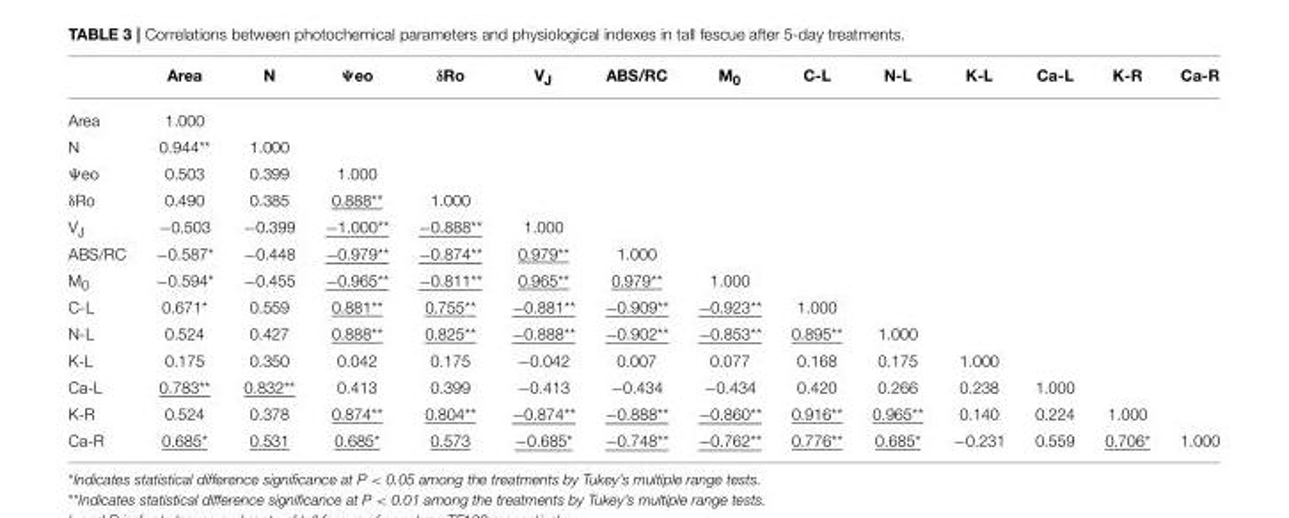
<table><thead><tr><td></td><td>Area</td><td>N</td><td>Ψeo</td><td>δRo</td><td>V<sub>J</sub></td><td>ABS/RC</td><td>M<sub>0</sub></td><td>C-L</td><td>N-L</td><td>K-L</td><td>Ca-L</td><td>K-R</td><td>Ca-R</td></tr></thead><tbody><tr><td>Area</td><td>1.000</td><td></td><td></td><td></td><td></td><td></td><td></td><td></td><td></td><td></td><td></td><td></td><td></td></tr><tr><td>N</td><td>0.944**</td><td>1.000</td><td></td><td></td><td></td><td></td><td></td><td></td><td></td><td></td><td></td><td></td><td></td></tr><tr><td>Ψeo</td><td>0.503</td><td>0.399</td><td>1.000</td><td></td><td></td><td></td><td></td><td></td><td></td><td></td><td></td><td></td><td></td></tr><tr><td>δRo</td><td>0.490</td><td>0.385</td><td>0.888**</td><td>1.000</td><td></td><td></td><td></td><td></td><td></td><td></td><td></td><td></td><td></td></tr><tr><td>V<sub>J</sub></td><td>−0.503</td><td>−0.399</td><td>−1.000**</td><td>−0.888**</td><td>1.000</td><td></td><td></td><td></td><td></td><td></td><td></td><td></td><td></td></tr><tr><td>ABS/RC</td><td>−0.587*</td><td>−0.448</td><td>−0.979**</td><td>−0.874**</td><td>0.979**</td><td>1.000</td><td></td><td></td><td></td><td></td><td></td><td></td><td></td></tr><tr><td>M<sub>0</sub></td><td>−0.594*</td><td>−0.455</td><td>−0.965**</td><td>−0.811**</td><td>0.965**</td><td>0.979**</td><td>1.000</td><td></td><td></td><td></td><td></td><td></td><td></td></tr><tr><td>C-L</td><td>0.671*</td><td>0.559</td><td>0.881**</td><td>0.755**</td><td>−0.881**</td><td>−0.909**</td><td>−0.923**</td><td>1.000</td><td></td><td></td><td></td><td></td><td></td></tr><tr><td>N-L</td><td>0.524</td><td>0.427</td><td>0.888**</td><td>0.825**</td><td>−0.888**</td><td>−0.902**</td><td>−0.853**</td><td>0.895**</td><td>1.000</td><td></td><td></td><td></td><td></td></tr><tr><td>K-L</td><td>0.175</td><td>0.350</td><td>0.042</td><td>0.175</td><td>−0.042</td><td>0.007</td><td>0.077</td><td>0.168</td><td>0.175</td><td>1.000</td><td></td><td></td><td></td></tr><tr><td>Ca-L</td><td>0.783**</td><td>0.832**</td><td>0.413</td><td>0.399</td><td>−0.413</td><td>−0.434</td><td>−0.434</td><td>0.420</td><td>0.266</td><td>0.238</td><td>1.000</td><td></td><td></td></tr><tr><td>K-R</td><td>0.524</td><td>0.378</td><td>0.874**</td><td>0.804**</td><td>−0.874**</td><td>−0.888**</td><td>−0.860**</td><td>0.916**</td><td>0.965**</td><td>0.140</td><td>0.224</td><td>1.000</td><td></td></tr><tr><td>Ca-R</td><td>0.685*</td><td>0.531</td><td>0.685*</td><td>0.573</td><td>−0.685*</td><td>−0.748**</td><td>−0.762**</td><td>0.776**</td><td>0.685*</td><td>−0.231</td><td>0.559</td><td>0.706*</td><td>1.000</td></tr></tbody></table>